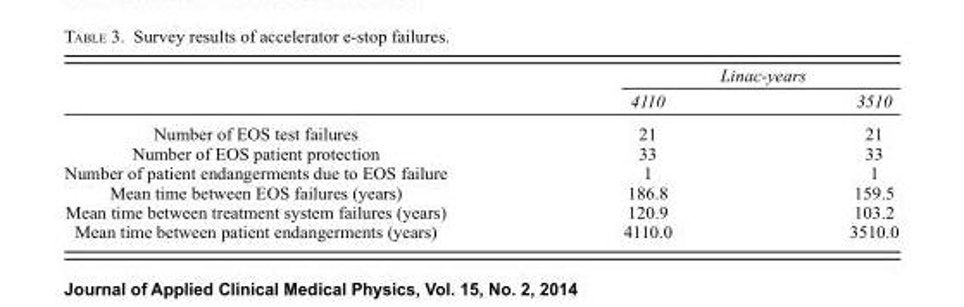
<table><thead><tr><td rowspan="2"></td><td colspan="2">Linac-years</td></tr><tr><td>4110</td><td>3510</td></tr></thead><tbody><tr><td>Number of EOS test failures</td><td>21</td><td>21</td></tr><tr><td>Number of EOS patient protection</td><td>33</td><td>33</td></tr><tr><td>Number of patient endangerments due to EOS failure</td><td>1</td><td>1</td></tr><tr><td>Mean time between EOS failures (years)</td><td>186.8</td><td>159.5</td></tr><tr><td>Mean time between treatment system failures (years)</td><td>120.9</td><td>103.2</td></tr><tr><td>Mean time between patient endangerments (years)</td><td>4110.0</td><td>3510.0</td></tr></tbody></table>